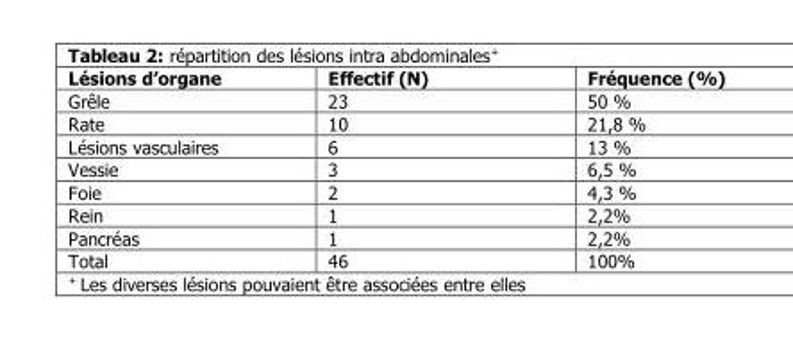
<table><thead><tr><td>Lésions d’organe</td><td>Effectif (N)</td><td>Fréquence (%)</td></tr></thead><tbody><tr><td>Grêle</td><td>23</td><td>50 %</td></tr><tr><td>Rate</td><td>10</td><td>21,8 %</td></tr><tr><td>Lésions vasculaires</td><td>6</td><td>13 %</td></tr><tr><td>Vessie</td><td>3</td><td>6,5 %</td></tr><tr><td>Foie</td><td>2</td><td>4,3 %</td></tr><tr><td>Rein</td><td>1</td><td>2,2%</td></tr><tr><td>Pancréas</td><td>1</td><td>2,2%</td></tr><tr><td>Total</td><td>46</td><td>100%</td></tr></tbody></table>